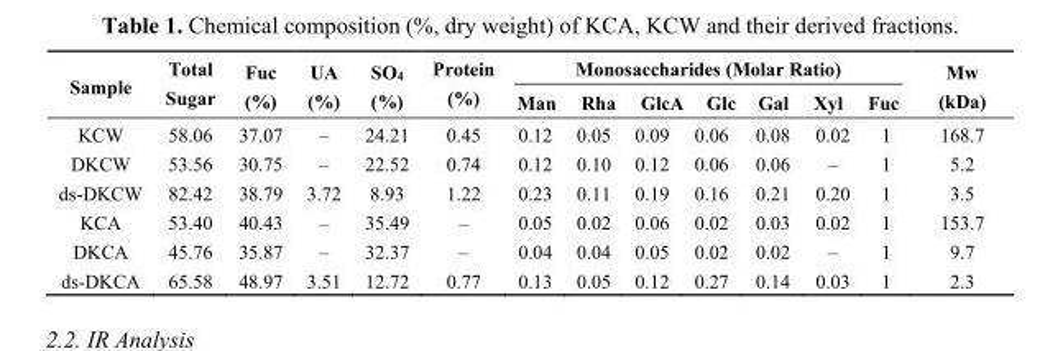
<table><thead><tr><td rowspan="2">Sample</td><td rowspan="2">Total Sugar</td><td rowspan="2">Fuc (%)</td><td rowspan="2">UA (%)</td><td rowspan="2">SO<sub>4</sub> (%)</td><td rowspan="2">Protein (%)</td><td colspan="7">Monosaccharides (Molar Ratio)</td><td rowspan="2">Mw (kDa)</td></tr><tr><td>Man</td><td>Rha</td><td>GlcA</td><td>Glc</td><td>Gal</td><td>Xyl</td><td>Fuc</td></tr></thead><tbody><tr><td>KCW</td><td>58.06</td><td>37.07</td><td>–</td><td>24.21</td><td>0.45</td><td>0.12</td><td>0.05</td><td>0.09</td><td>0.06</td><td>0.08</td><td>0.02</td><td>1</td><td>168.7</td></tr><tr><td>DKCW</td><td>53.56</td><td>30.75</td><td>–</td><td>22.52</td><td>0.74</td><td>0.12</td><td>0.10</td><td>0.12</td><td>0.06</td><td>0.06</td><td>–</td><td>1</td><td>5.2</td></tr><tr><td>ds-DKCW</td><td>82.42</td><td>38.79</td><td>3.72</td><td>8.93</td><td>1.22</td><td>0.23</td><td>0.11</td><td>0.19</td><td>0.16</td><td>0.21</td><td>0.20</td><td>1</td><td>3.5</td></tr><tr><td>KCA</td><td>53.40</td><td>40.43</td><td>–</td><td>35.49</td><td>–</td><td>0.05</td><td>0.02</td><td>0.06</td><td>0.02</td><td>0.03</td><td>0.02</td><td>1</td><td>153.7</td></tr><tr><td>DKCA</td><td>45.76</td><td>35.87</td><td>–</td><td>32.37</td><td>–</td><td>0.04</td><td>0.04</td><td>0.05</td><td>0.02</td><td>0.02</td><td>–</td><td>1</td><td>9.7</td></tr><tr><td>ds-DKCA</td><td>65.58</td><td>48.97</td><td>3.51</td><td>12.72</td><td>0.77</td><td>0.13</td><td>0.05</td><td>0.12</td><td>0.27</td><td>0.14</td><td>0.03</td><td>1</td><td>2.3</td></tr></tbody></table>